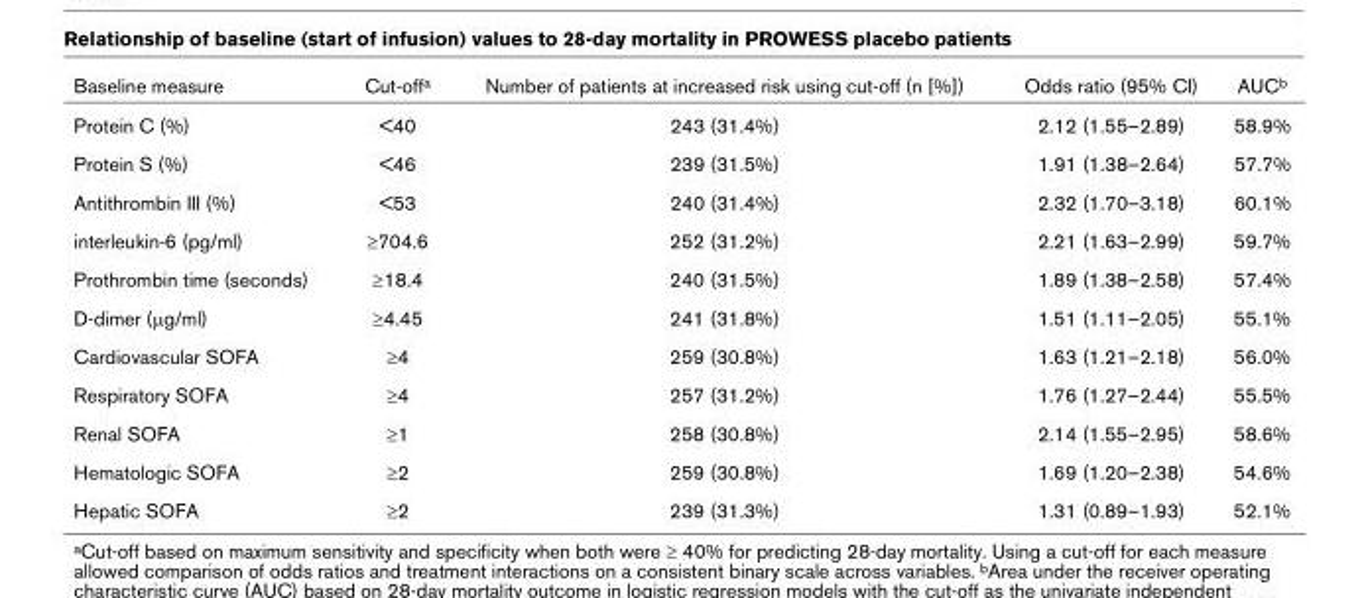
<table><thead><tr><td>Baseline measure</td><td>Cut-off<sup>a</sup></td><td>Number of patients at increased risk using cut-off (n [%])</td><td>Odds ratio (95% CI)</td><td>AUC<sup>b</sup></td></tr></thead><tbody><tr><td>Protein C (%)</td><td>&lt;40</td><td>243 (31.4%)</td><td>2.12 (1.55–2.89)</td><td>58.9%</td></tr><tr><td>Protein S (%)</td><td>&lt;46</td><td>239 (31.5%)</td><td>1.91 (1.38–2.64)</td><td>57.7%</td></tr><tr><td>Antithrombin III (%)</td><td>&lt;53</td><td>240 (31.4%)</td><td>2.32 (1.70–3.18)</td><td>60.1%</td></tr><tr><td>interleukin-6 (pg/ml)</td><td>≥704.6</td><td>252 (31.2%)</td><td>2.21 (1.63–2.99)</td><td>59.7%</td></tr><tr><td>Prothrombin time (seconds)</td><td>≥18.4</td><td>240 (31.5%)</td><td>1.89 (1.38–2.58)</td><td>57.4%</td></tr><tr><td>D-dimer (μg/ml)</td><td>≥4.45</td><td>241 (31.8%)</td><td>1.51 (1.11–2.05)</td><td>55.1%</td></tr><tr><td>Cardiovascular SOFA</td><td>≥4</td><td>259 (30.8%)</td><td>1.63 (1.21–2.18)</td><td>56.0%</td></tr><tr><td>Respiratory SOFA</td><td>≥4</td><td>257 (31.2%)</td><td>1.76 (1.27–2.44)</td><td>55.5%</td></tr><tr><td>Renal SOFA</td><td>≥1</td><td>258 (30.8%)</td><td>2.14 (1.55–2.95)</td><td>58.6%</td></tr><tr><td>Hematologic SOFA</td><td>≥2</td><td>259 (30.8%)</td><td>1.69 (1.20–2.38)</td><td>54.6%</td></tr><tr><td>Hepatic SOFA</td><td>≥2</td><td>239 (31.3%)</td><td>1.31 (0.89–1.93)</td><td>52.1%</td></tr></tbody></table>